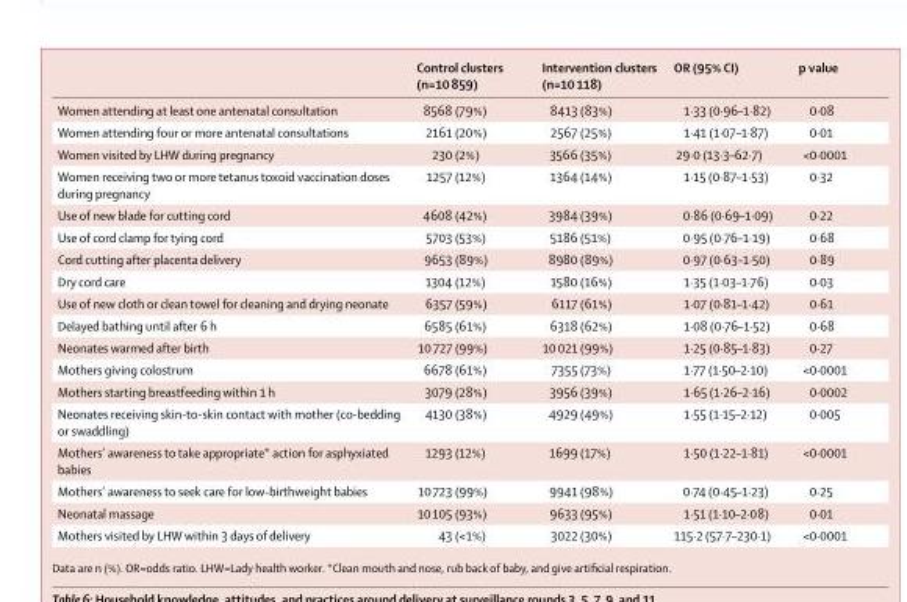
<table><thead><tr><td></td><td>Control clusters (n=10 859)</td><td>Intervention clusters (n=10 118)</td><td>OR (95% CI)</td><td>p value</td></tr></thead><tbody><tr><td>Women attending at least one antenatal consultation</td><td>8568 (79%)</td><td>8413 (83%)</td><td>1·33 (0·96–1·82)</td><td>0·08</td></tr><tr><td>Women attending four or more antenatal consultations</td><td>2161 (20%)</td><td>2567 (25%)</td><td>1·41 (1·07–1·87)</td><td>0·01</td></tr><tr><td>Women visited by LHW during pregnancy</td><td>230 (2%)</td><td>3566 (35%)</td><td>29·0 (13·3–62·7)</td><td>&lt;0·0001</td></tr><tr><td>Women receiving two or more tetanus toxoid vaccination doses during pregnancy</td><td>1257 (12%)</td><td>1364 (14%)</td><td>1·15 (0·87–1·53)</td><td>0·32</td></tr><tr><td>Use of new blade for cutting cord</td><td>4608 (42%)</td><td>3984 (39%)</td><td>0·86 (0·69–1·09)</td><td>0·22</td></tr><tr><td>Use of cord clamp for tying cord</td><td>5703 (53%)</td><td>5186 (51%)</td><td>0·95 (0·76–1·19)</td><td>0·68</td></tr><tr><td>Cord cutting after placenta delivery</td><td>9653 (89%)</td><td>8980 (89%)</td><td>0·97 (0·63–1·50)</td><td>0·89</td></tr><tr><td>Dry cord care</td><td>1304 (12%)</td><td>1580 (16%)</td><td>1·35 (1·03–1·76)</td><td>0·03</td></tr><tr><td>Use of new cloth or clean towel for cleaning and drying neonate</td><td>6357 (59%)</td><td>6117 (61%)</td><td>1·07 (0·81–1·42)</td><td>0·61</td></tr><tr><td>Delayed bathing until after 6 h</td><td>6585 (61%)</td><td>6318 (62%)</td><td>1·08 (0·76–1·52)</td><td>0·68</td></tr><tr><td>Neonates warmed after birth</td><td>10 727 (99%)</td><td>10 021 (99%)</td><td>1·25 (0·85–1·83)</td><td>0·27</td></tr><tr><td>Mothers giving colostrum</td><td>6678 (61%)</td><td>7355 (73%)</td><td>1·77 (1·50–2·10)</td><td>&lt;0·0001</td></tr><tr><td>Mothers starting breastfeeding within 1 h</td><td>3079 (28%)</td><td>3956 (39%)</td><td>1·65 (1·26–2·16)</td><td>0·0002</td></tr><tr><td>Neonates receiving skin-to-skin contact with mother (co-bedding or swaddling)</td><td>4130 (38%)</td><td>4929 (49%)</td><td>1·55 (1·15–2·12)</td><td>0·005</td></tr><tr><td>Mothers’ awareness to take appropriate* action for asphyxiated babies</td><td>1293 (12%)</td><td>1699 (17%)</td><td>1·50 (1·22–1·81)</td><td>&lt;0·0001</td></tr><tr><td>Mothers’ awareness to seek care for low-birthweight babies</td><td>10 723 (99%)</td><td>9941 (98%)</td><td>0·74 (0·45–1·23)</td><td>0·25</td></tr><tr><td>Neonatal massage</td><td>10 105 (93%)</td><td>9633 (95%)</td><td>1·51 (1·10–2·08)</td><td>0·01</td></tr><tr><td>Mothers visited by LHW within 3 days of delivery</td><td>43 (&lt;1%)</td><td>3022 (30%)</td><td>115·2 (57·7–230·1)</td><td>&lt;0·0001</td></tr></tbody></table>